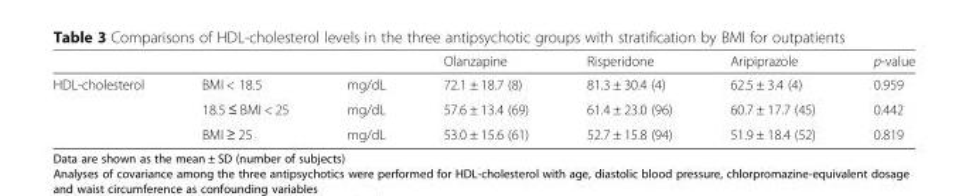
<table><thead><tr><td></td><td></td><td></td><td>Olanzapine</td><td>Risperidone</td><td>Aripiprazole</td><td>p-value</td></tr></thead><tbody><tr><td rowspan="3">HDL-cholesterol</td><td>BMI &lt; 18.5</td><td>mg/dL</td><td>72.1 ± 18.7 (8)</td><td>81.3 ± 30.4 (4)</td><td>62.5 ± 3.4 (4)</td><td>0.959</td></tr><tr><td>18.5 ≤ BMI &lt; 25</td><td>mg/dL</td><td>57.6 ± 13.4 (69)</td><td>61.4 ± 23.0 (96)</td><td>60.7 ± 17.7 (45)</td><td>0.442</td></tr><tr><td>BMI ≥ 25</td><td>mg/dL</td><td>53.0 ± 15.6 (61)</td><td>52.7 ± 15.8 (94)</td><td>51.9 ± 18.4 (52)</td><td>0.819</td></tr></tbody></table>